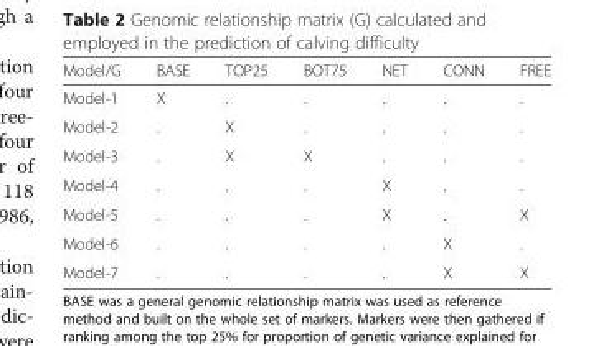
<table><thead><tr><td>Model/G</td><td>BASE</td><td>TOP25</td><td>BOT75</td><td>NET</td><td>CONN</td><td>FREE</td></tr></thead><tbody><tr><td>Model-1</td><td>X</td><td>.</td><td>.</td><td>.</td><td>.</td><td>.</td></tr><tr><td>Model-2</td><td>.</td><td>X</td><td>.</td><td>.</td><td>.</td><td>.</td></tr><tr><td>Model-3</td><td>.</td><td>X</td><td>X</td><td>.</td><td>.</td><td>.</td></tr><tr><td>Model-4</td><td>.</td><td>.</td><td>.</td><td>X</td><td>.</td><td>.</td></tr><tr><td>Model-5</td><td>.</td><td>.</td><td>.</td><td>X</td><td>.</td><td>X</td></tr><tr><td>Model-6</td><td>.</td><td>.</td><td>.</td><td>.</td><td>X</td><td>.</td></tr><tr><td>Model-7</td><td>.</td><td>.</td><td>.</td><td>.</td><td>X</td><td>X</td></tr></tbody></table>